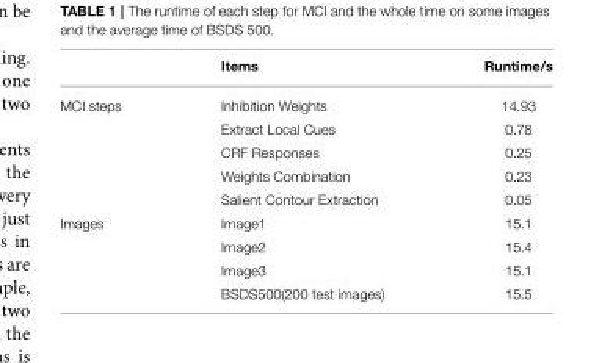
<table><thead><tr><td></td><td>Items</td><td>Runtime/s</td></tr></thead><tbody><tr><td rowspan="5">MCI steps</td><td>Inhibition Weights</td><td>14.93</td></tr><tr><td>Extract Local Cues</td><td>0.78</td></tr><tr><td>CRF Responses</td><td>0.25</td></tr><tr><td>Weights Combination</td><td>0.23</td></tr><tr><td>Salient Contour Extraction</td><td>0.05</td></tr><tr><td rowspan="4">Images</td><td>Image1</td><td>15.1</td></tr><tr><td>Image2</td><td>15.4</td></tr><tr><td>Image3</td><td>15.1</td></tr><tr><td>BSDS500(200 test images)</td><td>15.5</td></tr></tbody></table>